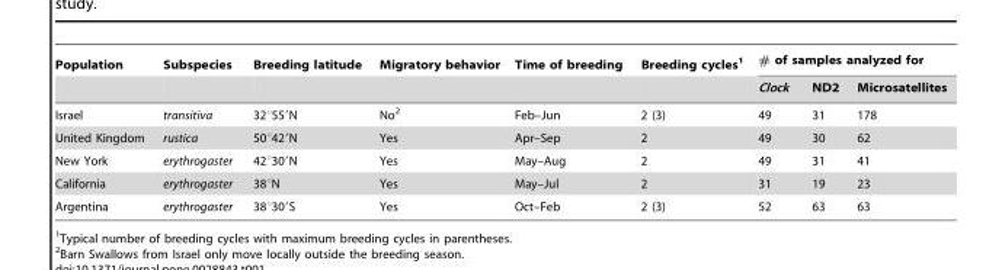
<table><thead><tr><td rowspan="2">Population</td><td rowspan="2">Subspecies</td><td rowspan="2">Breeding latitude</td><td rowspan="2">Migratory behavior</td><td rowspan="2">Time of breeding</td><td rowspan="2">Breeding cycles<sup>1</sup></td><td colspan="3"># of samples analyzed for</td></tr><tr><td>Clock</td><td>ND2</td><td>Microsatellites</td></tr></thead><tbody><tr><td>Israel</td><td>transitiva</td><td>32°55′N</td><td>No<sup>2</sup></td><td>Feb–Jun</td><td>2 (3)</td><td>49</td><td>31</td><td>178</td></tr><tr><td>United Kingdom</td><td>rustica</td><td>50°42′N</td><td>Yes</td><td>Apr–Sep</td><td>2</td><td>49</td><td>30</td><td>62</td></tr><tr><td>New York</td><td>erythrogaster</td><td>42°30′N</td><td>Yes</td><td>May–Aug</td><td>2</td><td>49</td><td>31</td><td>41</td></tr><tr><td>California</td><td>erythrogaster</td><td>38°N</td><td>Yes</td><td>May–Jul</td><td>2</td><td>31</td><td>19</td><td>23</td></tr><tr><td>Argentina</td><td>erythrogaster</td><td>38°30′S</td><td>Yes</td><td>Oct–Feb</td><td>2 (3)</td><td>52</td><td>63</td><td>63</td></tr></tbody></table>